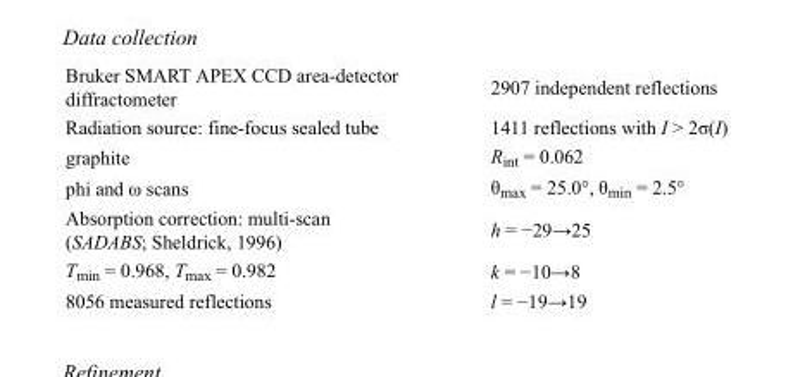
<table><tbody><tr><td>Bruker SMART APEX CCD area-detector diffractometer</td><td>2907 independent reflections</td></tr><tr><td>Radiation source: fine-focus sealed tube</td><td>1411 reflections with I &gt; 2σ(I)</td></tr><tr><td>graphite</td><td>R<sub>int</sub> = 0.062</td></tr><tr><td>phi and ω scans</td><td>θ<sub>max</sub> = 25.0°, θ<sub>min</sub> = 2.5°</td></tr><tr><td>Absorption correction: multi-scan (SADABS; Sheldrick, 1996)</td><td>h = −29→25</td></tr><tr><td>T<sub>min</sub> = 0.968, T<sub>max</sub> = 0.982</td><td>k = −10→8</td></tr><tr><td>8056 measured reflections</td><td>l = −19→19</td></tr></tbody></table>